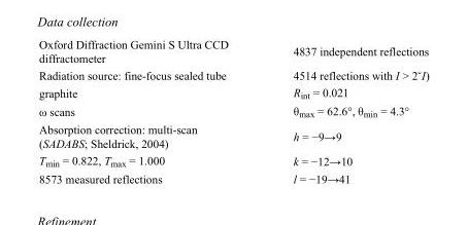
<table><tbody><tr><td>Oxford Diffraction Gemini S Ultra CCD diffractometer</td><td>4837 independent reflections</td></tr><tr><td>Radiation source: fine-focus sealed tube</td><td>4514 reflections with I &gt; 2˘I)</td></tr><tr><td>graphite</td><td>R<sub>int</sub> = 0.021</td></tr><tr><td>ω scans</td><td>θ<sub>max</sub> = 62.6°, θ<sub>min</sub> = 4.3°</td></tr><tr><td>Absorption correction: multi-scan (SADABS; Sheldrick, 2004)</td><td>h = −9→9</td></tr><tr><td>T<sub>min</sub> = 0.822, T<sub>max</sub> = 1.000</td><td>k = −12→10</td></tr><tr><td>8573 measured reflections</td><td>l = −19→41</td></tr></tbody></table>